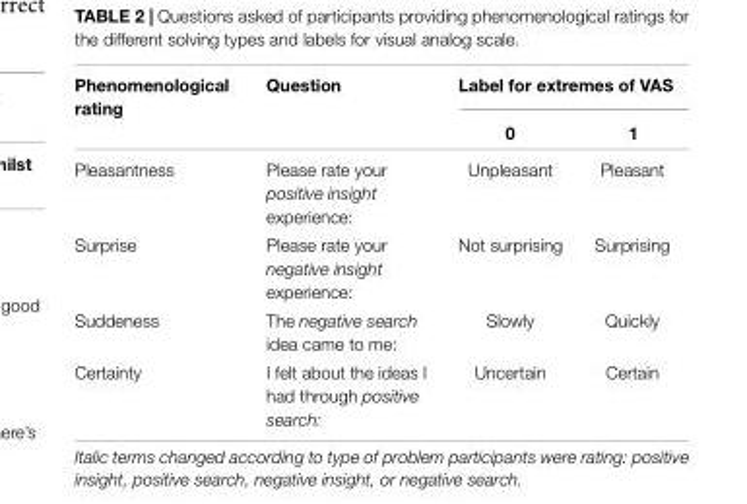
<table><thead><tr><td rowspan="2">Phenomenological rating</td><td rowspan="2">Question</td><td colspan="2">Label for extremes of VAS</td></tr><tr><td>0</td><td>1</td></tr></thead><tbody><tr><td>Pleasantness</td><td>Please rate your positive insight experience:</td><td>Unpleasant</td><td>Pleasant</td></tr><tr><td>Surprise</td><td>Please rate your negative insight experience:</td><td>Not surprising</td><td>Surprising</td></tr><tr><td>Suddeness</td><td>The negative search idea came to me:</td><td>Slowly</td><td>Quickly</td></tr><tr><td>Certainty</td><td>I felt about the ideas I had through positive search:</td><td>Uncertain</td><td>Certain</td></tr></tbody></table>